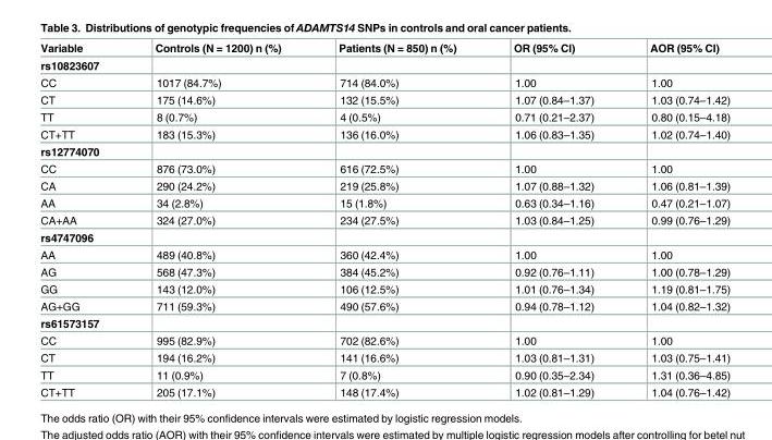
<table><thead><tr><td>Variable</td><td>Controls (N = 1200) n (%)</td><td>Patients (N = 850) n (%)</td><td>OR (95% CI)</td><td>AOR (95% CI)</td></tr></thead><tbody><tr><td colspan="5">rs10823607</td></tr><tr><td>CC</td><td>1017 (84.7%)</td><td>714 (84.0%)</td><td>1.00</td><td>1.00</td></tr><tr><td>CT</td><td>175 (14.6%)</td><td>132 (15.5%)</td><td>1.07 (0.84–1.37)</td><td>1.03 (0.74–1.42)</td></tr><tr><td>TT</td><td>8 (0.7%)</td><td>4 (0.5%)</td><td>0.71 (0.21–2.37)</td><td>0.80 (0.15–4.18)</td></tr><tr><td>CT+TT</td><td>183 (15.3%)</td><td>136 (16.0%)</td><td>1.06 (0.83–1.35)</td><td>1.02 (0.74–1.40)</td></tr><tr><td colspan="5">rs12774070</td></tr><tr><td>CC</td><td>876 (73.0%)</td><td>616 (72.5%)</td><td>1.00</td><td>1.00</td></tr><tr><td>CA</td><td>290 (24.2%)</td><td>219 (25.8%)</td><td>1.07 (0.88–1.32)</td><td>1.06 (0.81–1.39)</td></tr><tr><td>AA</td><td>34 (2.8%)</td><td>15 (1.8%)</td><td>0.63 (0.34–1.16)</td><td>0.47 (0.21–1.07)</td></tr><tr><td>CA+AA</td><td>324 (27.0%)</td><td>234 (27.5%)</td><td>1.03 (0.84–1.25)</td><td>0.99 (0.76–1.29)</td></tr><tr><td colspan="5">rs4747096</td></tr><tr><td>AA</td><td>489 (40.8%)</td><td>360 (42.4%)</td><td>1.00</td><td>1.00</td></tr><tr><td>AG</td><td>568 (47.3%)</td><td>384 (45.2%)</td><td>0.92 (0.76–1.11)</td><td>1.00 (0.78–1.29)</td></tr><tr><td>GG</td><td>143 (12.0%)</td><td>106 (12.5%)</td><td>1.01 (0.76–1.34)</td><td>1.19 (0.81–1.75)</td></tr><tr><td>AG+GG</td><td>711 (59.3%)</td><td>490 (57.6%)</td><td>0.94 (0.78–1.12)</td><td>1.04 (0.82–1.32)</td></tr><tr><td colspan="5">rs61573157</td></tr><tr><td>CC</td><td>995 (82.9%)</td><td>702 (82.6%)</td><td>1.00</td><td>1.00</td></tr><tr><td>CT</td><td>194 (16.2%)</td><td>141 (16.6%)</td><td>1.03 (0.81–1.31)</td><td>1.03 (0.75–1.41)</td></tr><tr><td>TT</td><td>11 (0.9%)</td><td>7 (0.8%)</td><td>0.90 (0.35–2.34)</td><td>1.31 (0.36–4.85)</td></tr><tr><td>CT+TT</td><td>205 (17.1%)</td><td>148 (17.4%)</td><td>1.02 (0.81–1.29)</td><td>1.04 (0.76–1.42)</td></tr></tbody></table>